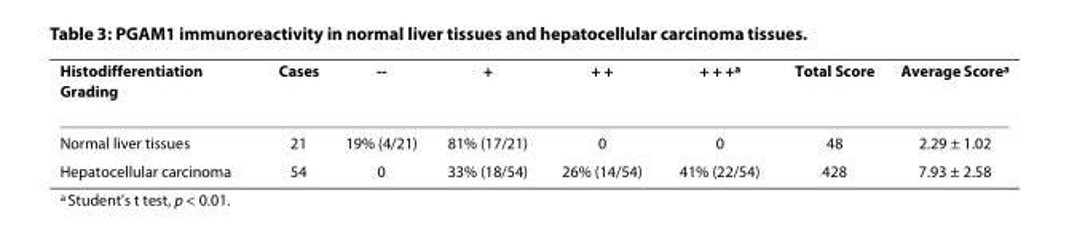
<table><thead><tr><td>Histodifferentiation Grading</td><td>Cases</td><td>--</td><td>+</td><td>+ +</td><td>+ + +<sup>a</sup></td><td>Total Score</td><td>Average Score<sup>a</sup></td></tr></thead><tbody><tr><td>Normal liver tissues</td><td>21</td><td>19% (4/21)</td><td>81% (17/21)</td><td>0</td><td>0</td><td>48</td><td>2.29 ± 1.02</td></tr><tr><td>Hepatocellular carcinoma</td><td>54</td><td>0</td><td>33% (18/54)</td><td>26% (14/54)</td><td>41% (22/54)</td><td>428</td><td>7.93 ± 2.58</td></tr></tbody></table>